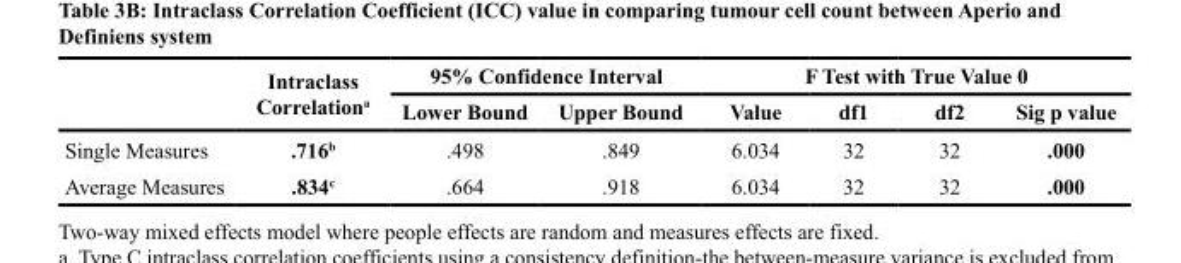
<table><thead><tr><td rowspan="2"></td><td rowspan="2">Intraclass Correlation<sup>a</sup></td><td colspan="2">95% Confidence Interval</td><td colspan="4">F Test with True Value 0</td></tr><tr><td>Lower Bound</td><td>Upper Bound</td><td>Value</td><td>df1</td><td>df2</td><td>Sig p value</td></tr></thead><tbody><tr><td>Single Measures</td><td>.716<sup>b</sup></td><td>.498</td><td>.849</td><td>6.034</td><td>32</td><td>32</td><td>.000</td></tr><tr><td>Average Measures</td><td>.834<sup>c</sup></td><td>.664</td><td>.918</td><td>6.034</td><td>32</td><td>32</td><td>.000</td></tr></tbody></table>